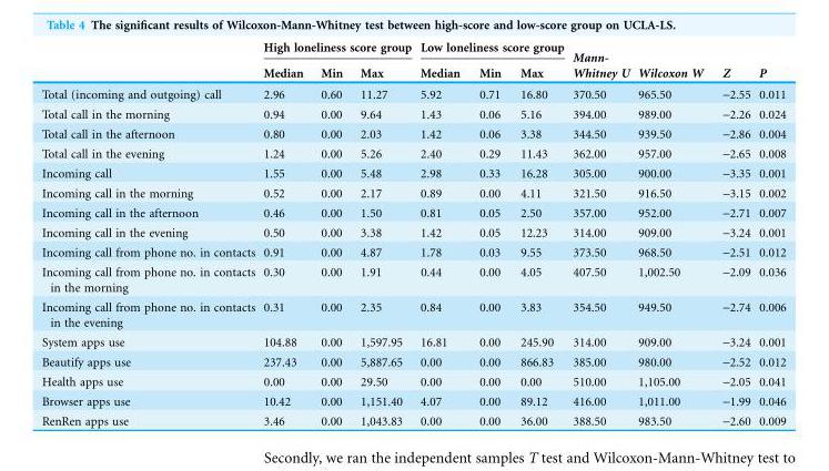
<table><thead><tr><td rowspan="2"></td><td colspan="3">High loneliness score group</td><td colspan="3">Low loneliness score group</td><td rowspan="2">Mann- Whitney U</td><td rowspan="2">Wilcoxon W</td><td rowspan="2">Z</td><td rowspan="2">P</td></tr><tr><td>Median</td><td>Min</td><td>Max</td><td>Median</td><td>Min</td><td>Max</td></tr></thead><tbody><tr><td>Total (incoming and outgoing) call</td><td>2.96</td><td>0.60</td><td>11.27</td><td>5.92</td><td>0.71</td><td>16.80</td><td>370.50</td><td>965.50</td><td>-2.55</td><td>0.011</td></tr><tr><td>Total call in the morning</td><td>0.94</td><td>0.00</td><td>9.64</td><td>1.43</td><td>0.06</td><td>5.16</td><td>394.00</td><td>989.00</td><td>-2.26</td><td>0.024</td></tr><tr><td>Total call in the afternoon</td><td>0.80</td><td>0.00</td><td>2.03</td><td>1.42</td><td>0.06</td><td>3.38</td><td>344.50</td><td>939.50</td><td>-2.86</td><td>0.004</td></tr><tr><td>Total call in the evening</td><td>1.24</td><td>0.00</td><td>5.26</td><td>2.40</td><td>0.29</td><td>11.43</td><td>362.00</td><td>957.00</td><td>-2.65</td><td>0.008</td></tr><tr><td>Incoming call</td><td>1.55</td><td>0.00</td><td>5.48</td><td>2.98</td><td>0.33</td><td>16.28</td><td>305.00</td><td>900.00</td><td>-3.35</td><td>0.001</td></tr><tr><td>Incoming call in the morning</td><td>0.52</td><td>0.00</td><td>2.17</td><td>0.89</td><td>0.00</td><td>4.11</td><td>321.50</td><td>916.50</td><td>-3.15</td><td>0.002</td></tr><tr><td>Incoming call in the afternoon</td><td>0.46</td><td>0.00</td><td>1.50</td><td>0.81</td><td>0.05</td><td>2.50</td><td>357.00</td><td>952.00</td><td>-2.71</td><td>0.007</td></tr><tr><td>Incoming call in the evening</td><td>0.50</td><td>0.00</td><td>3.38</td><td>1.42</td><td>0.05</td><td>12.23</td><td>314.00</td><td>909.00</td><td>-3.24</td><td>0.001</td></tr><tr><td>Incoming call from phone no. in contacts</td><td>0.91</td><td>0.00</td><td>4.87</td><td>1.78</td><td>0.03</td><td>9.55</td><td>373.50</td><td>968.50</td><td>-2.51</td><td>0.012</td></tr><tr><td>Incoming call from phone no. in contacts in the morning</td><td>0.30</td><td>0.00</td><td>1.91</td><td>0.44</td><td>0.00</td><td>4.05</td><td>407.50</td><td>1,002.50</td><td>-2.09</td><td>0.036</td></tr><tr><td>Incoming call from phone no. in contacts in the evening</td><td>0.31</td><td>0.00</td><td>2.35</td><td>0.84</td><td>0.00</td><td>3.83</td><td>354.50</td><td>949.50</td><td>-2.74</td><td>0.006</td></tr><tr><td>System apps use</td><td>104.88</td><td>0.00</td><td>1,597.95</td><td>16.81</td><td>0.00</td><td>245.90</td><td>314.00</td><td>909.00</td><td>-3.24</td><td>0.001</td></tr><tr><td>Beautify apps use</td><td>237.43</td><td>0.00</td><td>5,887.65</td><td>0.00</td><td>0.00</td><td>866.83</td><td>385.00</td><td>980.00</td><td>-2.52</td><td>0.012</td></tr><tr><td>Health apps use</td><td>0.00</td><td>0.00</td><td>29.50</td><td>0.00</td><td>0.00</td><td>0.00</td><td>510.00</td><td>1,105.00</td><td>-2.05</td><td>0.041</td></tr><tr><td>Browser apps use</td><td>10.42</td><td>0.00</td><td>1,151.40</td><td>4.07</td><td>0.00</td><td>89.12</td><td>416.00</td><td>1,011.00</td><td>-1.99</td><td>0.046</td></tr><tr><td>RenRen apps use</td><td>3.46</td><td>0.00</td><td>1,043.83</td><td>0.00</td><td>0.00</td><td>36.00</td><td>388.50</td><td>983.50</td><td>-2.60</td><td>0.009</td></tr></tbody></table>